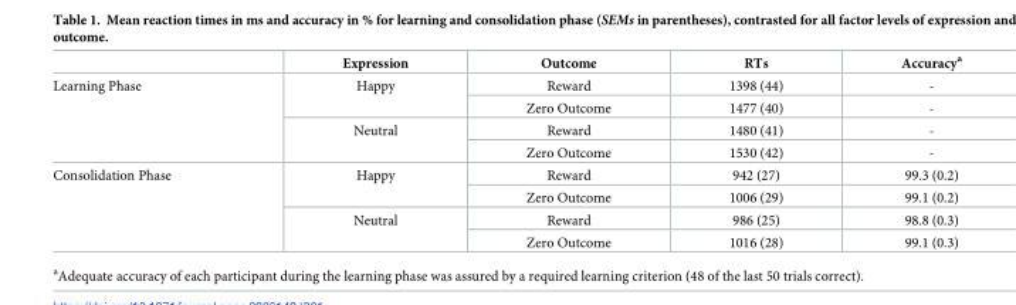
<table><thead><tr><td></td><td>Expression</td><td>Outcome</td><td>RTs</td><td>Accuracy<sup>a</sup></td></tr></thead><tbody><tr><td rowspan="4">Learning Phase</td><td rowspan="2">Happy</td><td>Reward</td><td>1398 (44)</td><td>-</td></tr><tr><td>Zero Outcome</td><td>1477 (40)</td><td>-</td></tr><tr><td rowspan="2">Neutral</td><td>Reward</td><td>1480 (41)</td><td>-</td></tr><tr><td>Zero Outcome</td><td>1530 (42)</td><td>-</td></tr><tr><td rowspan="4">Consolidation Phase</td><td rowspan="2">Happy</td><td>Reward</td><td>942 (27)</td><td>99.3 (0.2)</td></tr><tr><td>Zero Outcome</td><td>1006 (29)</td><td>99.1 (0.2)</td></tr><tr><td rowspan="2">Neutral</td><td>Reward</td><td>986 (25)</td><td>98.8 (0.3)</td></tr><tr><td>Zero Outcome</td><td>1016 (28)</td><td>99.1 (0.3)</td></tr></tbody></table>